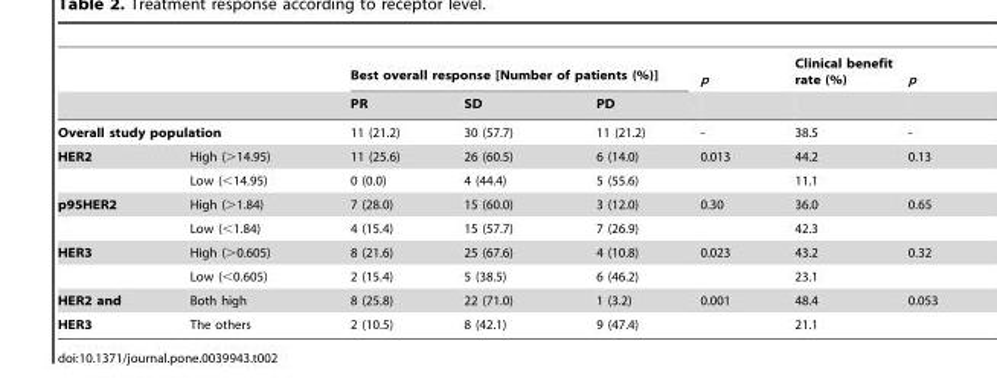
<table><thead><tr><td rowspan="2"></td><td rowspan="2"></td><td colspan="3">Best overall response [Number of patients (%)]</td><td rowspan="2">p</td><td rowspan="2">Clinical benefit rate (%)</td><td rowspan="2">p</td></tr><tr><td>PR</td><td>SD</td><td>PD</td></tr></thead><tbody><tr><td colspan="2">Overall study population</td><td>11 (21.2)</td><td>30 (57.7)</td><td>11 (21.2)</td><td>-</td><td>38.5</td><td>-</td></tr><tr><td rowspan="2">HER2</td><td>High (&gt;14.95)</td><td>11 (25.6)</td><td>26 (60.5)</td><td>6 (14.0)</td><td>0.013</td><td>44.2</td><td>0.13</td></tr><tr><td>Low (&lt;14.95)</td><td>0 (0.0)</td><td>4 (44.4)</td><td>5 (55.6)</td><td></td><td>11.1</td><td></td></tr><tr><td rowspan="2">p95HER2</td><td>High (&gt;1.84)</td><td>7 (28.0)</td><td>15 (60.0)</td><td>3 (12.0)</td><td>0.30</td><td>36.0</td><td>0.65</td></tr><tr><td>Low (&lt;1.84)</td><td>4 (15.4)</td><td>15 (57.7)</td><td>7 (26.9)</td><td></td><td>42.3</td><td></td></tr><tr><td rowspan="2">HER3</td><td>High (&gt;0.605)</td><td>8 (21.6)</td><td>25 (67.6)</td><td>4 (10.8)</td><td>0.023</td><td>43.2</td><td>0.32</td></tr><tr><td>Low (&lt;0.605)</td><td>2 (15.4)</td><td>5 (38.5)</td><td>6 (46.2)</td><td></td><td>23.1</td><td></td></tr><tr><td>HER2 and</td><td>Both high</td><td>8 (25.8)</td><td>22 (71.0)</td><td>1 (3.2)</td><td>0.001</td><td>48.4</td><td>0.053</td></tr><tr><td>HER3</td><td>The others</td><td>2 (10.5)</td><td>8 (42.1)</td><td>9 (47.4)</td><td></td><td>21.1</td><td></td></tr></tbody></table>